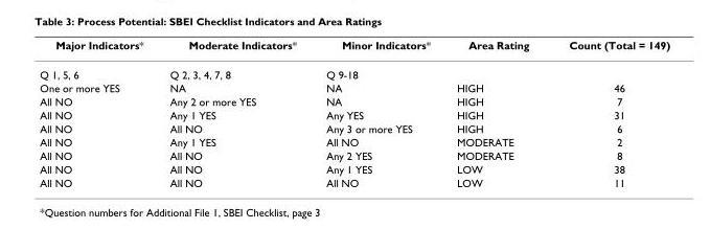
<table><thead><tr><td>Major Indicators*</td><td>Moderate Indicators*</td><td>Minor Indicators*</td><td>Area Rating</td><td>Count (Total = 149)</td></tr></thead><tbody><tr><td>Q 1, 5, 6</td><td>Q 2, 3, 4, 7, 8</td><td>Q 9-18</td><td></td><td></td></tr><tr><td>One or more YES</td><td>NA</td><td>NA</td><td>HIGH</td><td>46</td></tr><tr><td>All NO</td><td>Any 2 or more YES</td><td>NA</td><td>HIGH</td><td>7</td></tr><tr><td>All NO</td><td>Any 1 YES</td><td>Any YES</td><td>HIGH</td><td>31</td></tr><tr><td>All NO</td><td>All NO</td><td>Any 3 or more YES</td><td>HIGH</td><td>6</td></tr><tr><td>All NO</td><td>Any 1 YES</td><td>All NO</td><td>MODERATE</td><td>2</td></tr><tr><td>All NO</td><td>All NO</td><td>Any 2 YES</td><td>MODERATE</td><td>8</td></tr><tr><td>All NO</td><td>All NO</td><td>Any 1 YES</td><td>LOW</td><td>38</td></tr><tr><td>All NO</td><td>All NO</td><td>All NO</td><td>LOW</td><td>11</td></tr></tbody></table>